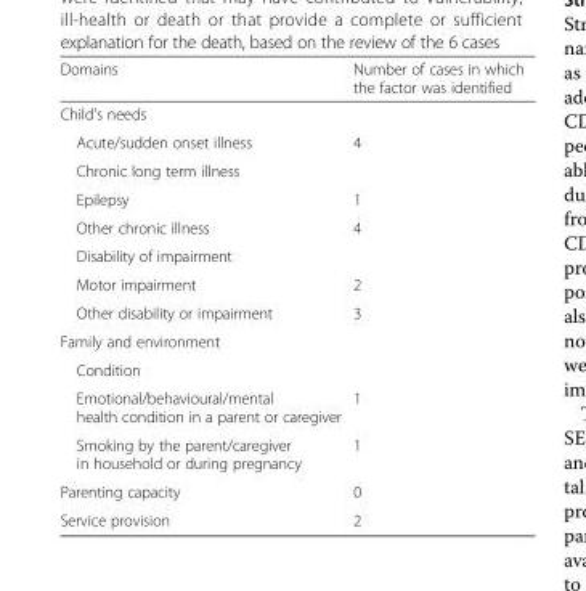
<table><thead><tr><td>Domains</td><td>Number of cases in which the factor was identified</td></tr></thead><tbody><tr><td colspan="2">Child&#x27;s needs</td></tr><tr><td>Acute/sudden onset illness</td><td>4</td></tr><tr><td colspan="2">Chronic long term illness</td></tr><tr><td>Epilepsy</td><td>1</td></tr><tr><td>Other chronic illness</td><td>4</td></tr><tr><td colspan="2">Disability of impairment</td></tr><tr><td>Motor impairment</td><td>2</td></tr><tr><td>Other disability or impairment</td><td>3</td></tr><tr><td colspan="2">Family and environment</td></tr><tr><td colspan="2">Condition</td></tr><tr><td>Emotional/behavioural/mental health condition in a parent or caregiver</td><td>1</td></tr><tr><td>Smoking by the parent/caregiver in household or during pregnancy</td><td>1</td></tr><tr><td>Parenting capacity</td><td>0</td></tr><tr><td>Service provision</td><td>2</td></tr></tbody></table>